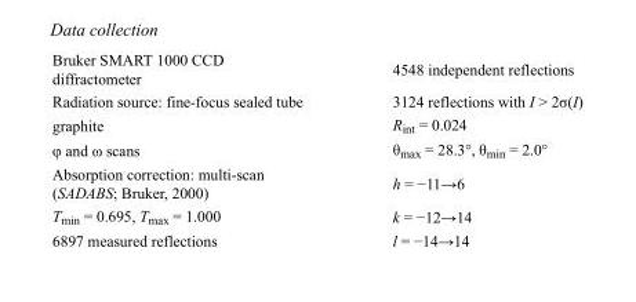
<table><tbody><tr><td>Bruker SMART 1000 CCD diffractometer</td><td>4548 independent reflections</td></tr><tr><td>Radiation source: fine-focus sealed tube</td><td>3124 reflections with I &gt; 2σ(I)</td></tr><tr><td>graphite</td><td>R<sub>int</sub> = 0.024</td></tr><tr><td>φ and ω scans</td><td>θ<sub>max</sub> = 28.3°, θ<sub>min</sub> = 2.0°</td></tr><tr><td>Absorption correction: multi-scan (SADABS; Bruker, 2000)</td><td>h = −11→6</td></tr><tr><td>T<sub>min</sub> = 0.695, T<sub>max</sub> = 1.000</td><td>k = −12→14</td></tr><tr><td>6897 measured reflections</td><td>l = −14→14</td></tr></tbody></table>